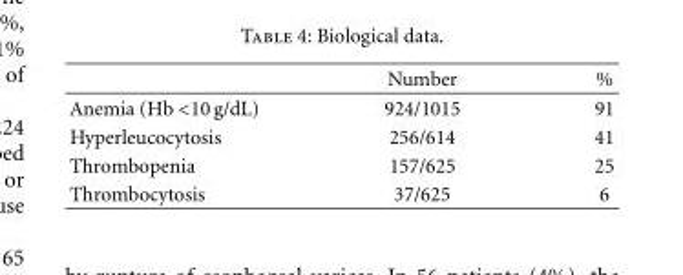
<table><thead><tr><td></td><td>Number</td><td>%</td></tr></thead><tbody><tr><td>Anemia (Hb &lt;10 g/dL)</td><td>924/1015</td><td>91</td></tr><tr><td>Hyperleucocytosis</td><td>256/614</td><td>41</td></tr><tr><td>Thrombopenia</td><td>157/625</td><td>25</td></tr><tr><td>Thrombocytosis</td><td>37/625</td><td>6</td></tr></tbody></table>